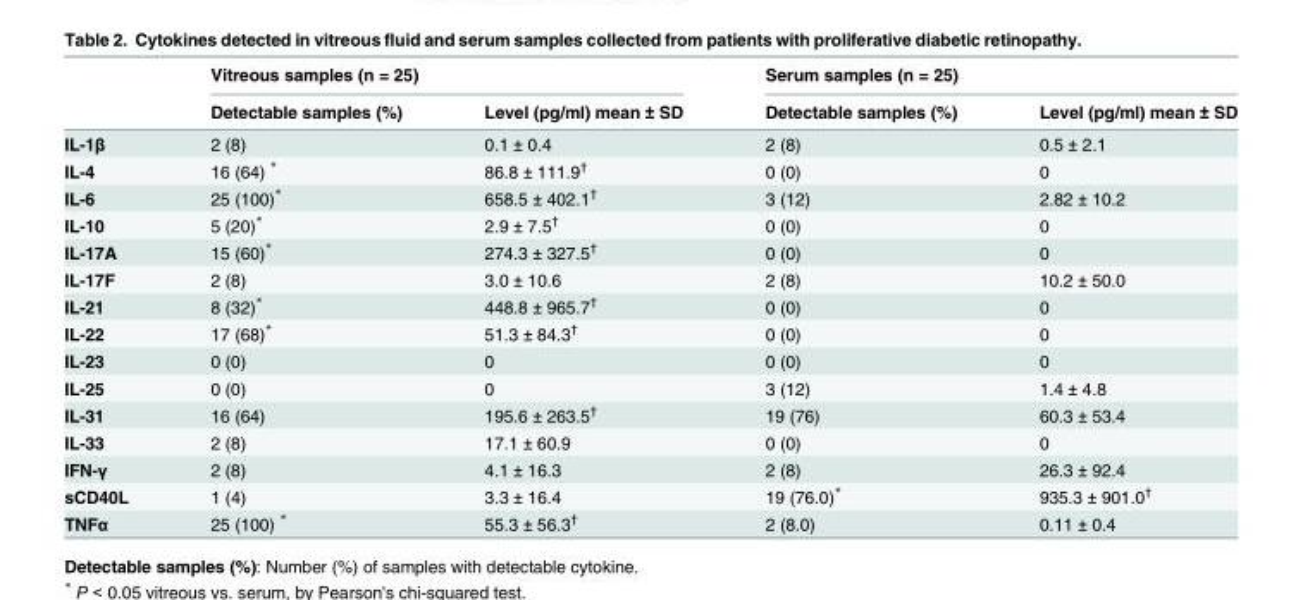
<table><thead><tr><td rowspan="2"></td><td colspan="2">Vitreous samples (n = 25)</td><td colspan="2">Serum samples (n = 25)</td></tr><tr><td>Detectable samples (%)</td><td>Level (pg/ml) mean ± SD</td><td>Detectable samples (%)</td><td>Level (pg/ml) mean ± SD</td></tr></thead><tbody><tr><td>IL-1β</td><td>2 (8)</td><td>0.1 ± 0.4</td><td>2 (8)</td><td>0.5 ± 2.1</td></tr><tr><td>IL-4</td><td>16 (64) *</td><td>86.8 ± 111.9<sup>†</sup></td><td>0 (0)</td><td>0</td></tr><tr><td>IL-6</td><td>25 (100)*</td><td>658.5 ± 402.1<sup>†</sup></td><td>3 (12)</td><td>2.82 ± 10.2</td></tr><tr><td>IL-10</td><td>5 (20)*</td><td>2.9 ± 7.5<sup>†</sup></td><td>0 (0)</td><td>0</td></tr><tr><td>IL-17A</td><td>15 (60)*</td><td>274.3 ± 327.5<sup>†</sup></td><td>0 (0)</td><td>0</td></tr><tr><td>IL-17F</td><td>2 (8)</td><td>3.0 ± 10.6</td><td>2 (8)</td><td>10.2 ± 50.0</td></tr><tr><td>IL-21</td><td>8 (32)*</td><td>448.8 ± 965.7<sup>†</sup></td><td>0 (0)</td><td>0</td></tr><tr><td>IL-22</td><td>17 (68)*</td><td>51.3 ± 84.3<sup>†</sup></td><td>0 (0)</td><td>0</td></tr><tr><td>IL-23</td><td>0 (0)</td><td>0</td><td>0 (0)</td><td>0</td></tr><tr><td>IL-25</td><td>0 (0)</td><td>0</td><td>3 (12)</td><td>1.4 ± 4.8</td></tr><tr><td>IL-31</td><td>16 (64)</td><td>195.6 ± 263.5<sup>†</sup></td><td>19 (76)</td><td>60.3 ± 53.4</td></tr><tr><td>IL-33</td><td>2 (8)</td><td>17.1 ± 60.9</td><td>0 (0)</td><td>0</td></tr><tr><td>IFN-γ</td><td>2 (8)</td><td>4.1 ± 16.3</td><td>2 (8)</td><td>26.3 ± 92.4</td></tr><tr><td>sCD40L</td><td>1 (4)</td><td>3.3 ± 16.4</td><td>19 (76.0)*</td><td>935.3 ± 901.0<sup>†</sup></td></tr><tr><td>TNFα</td><td>25 (100) *</td><td>55.3 ± 56.3<sup>†</sup></td><td>2 (8.0)</td><td>0.11 ± 0.4</td></tr></tbody></table>